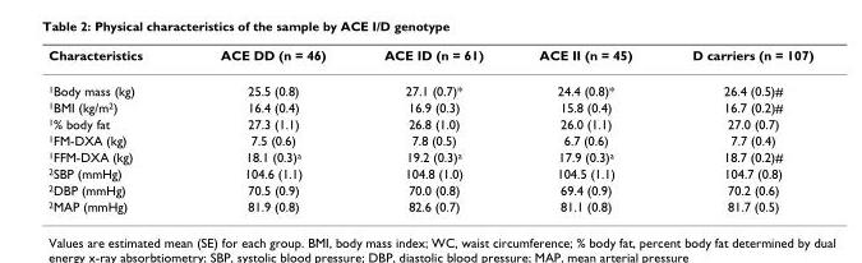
<table><thead><tr><td>Characteristics</td><td>ACE DD (n = 46)</td><td>ACE ID (n = 61)</td><td>ACE II (n = 45)</td><td>D carriers (n = 107)</td></tr></thead><tbody><tr><td><sup>1</sup>Body mass (kg)</td><td>25.5 (0.8)</td><td>27.1 (0.7)*</td><td>24.4 (0.8)*</td><td>26.4 (0.5)#</td></tr><tr><td><sup>1</sup>BMI (kg/m<sup>2</sup>)</td><td>16.4 (0.4)</td><td>16.9 (0.3)</td><td>15.8 (0.4)</td><td>16.7 (0.2)#</td></tr><tr><td><sup>1</sup>% body fat</td><td>27.3 (1.1)</td><td>26.8 (1.0)</td><td>26.0 (1.1)</td><td>27.0 (0.7)</td></tr><tr><td><sup>1</sup>FM-DXA (kg)</td><td>7.5 (0.6)</td><td>7.8 (0.5)</td><td>6.7 (0.6)</td><td>7.7 (0.4)</td></tr><tr><td><sup>1</sup>FFM-DXA (kg)</td><td>18.1 (0.3)<sup>a</sup></td><td>19.2 (0.3)<sup>a</sup></td><td>17.9 (0.3)<sup>a</sup></td><td>18.7 (0.2)#</td></tr><tr><td><sup>2</sup>SBP (mmHg)</td><td>104.6 (1.1)</td><td>104.8 (1.0)</td><td>104.5 (1.1)</td><td>104.7 (0.8)</td></tr><tr><td><sup>2</sup>DBP (mmHg)</td><td>70.5 (0.9)</td><td>70.0 (0.8)</td><td>69.4 (0.9)</td><td>70.2 (0.6)</td></tr><tr><td><sup>2</sup>MAP (mmHg)</td><td>81.9 (0.8)</td><td>82.6 (0.7)</td><td>81.1 (0.8)</td><td>81.7 (0.5)</td></tr></tbody></table>